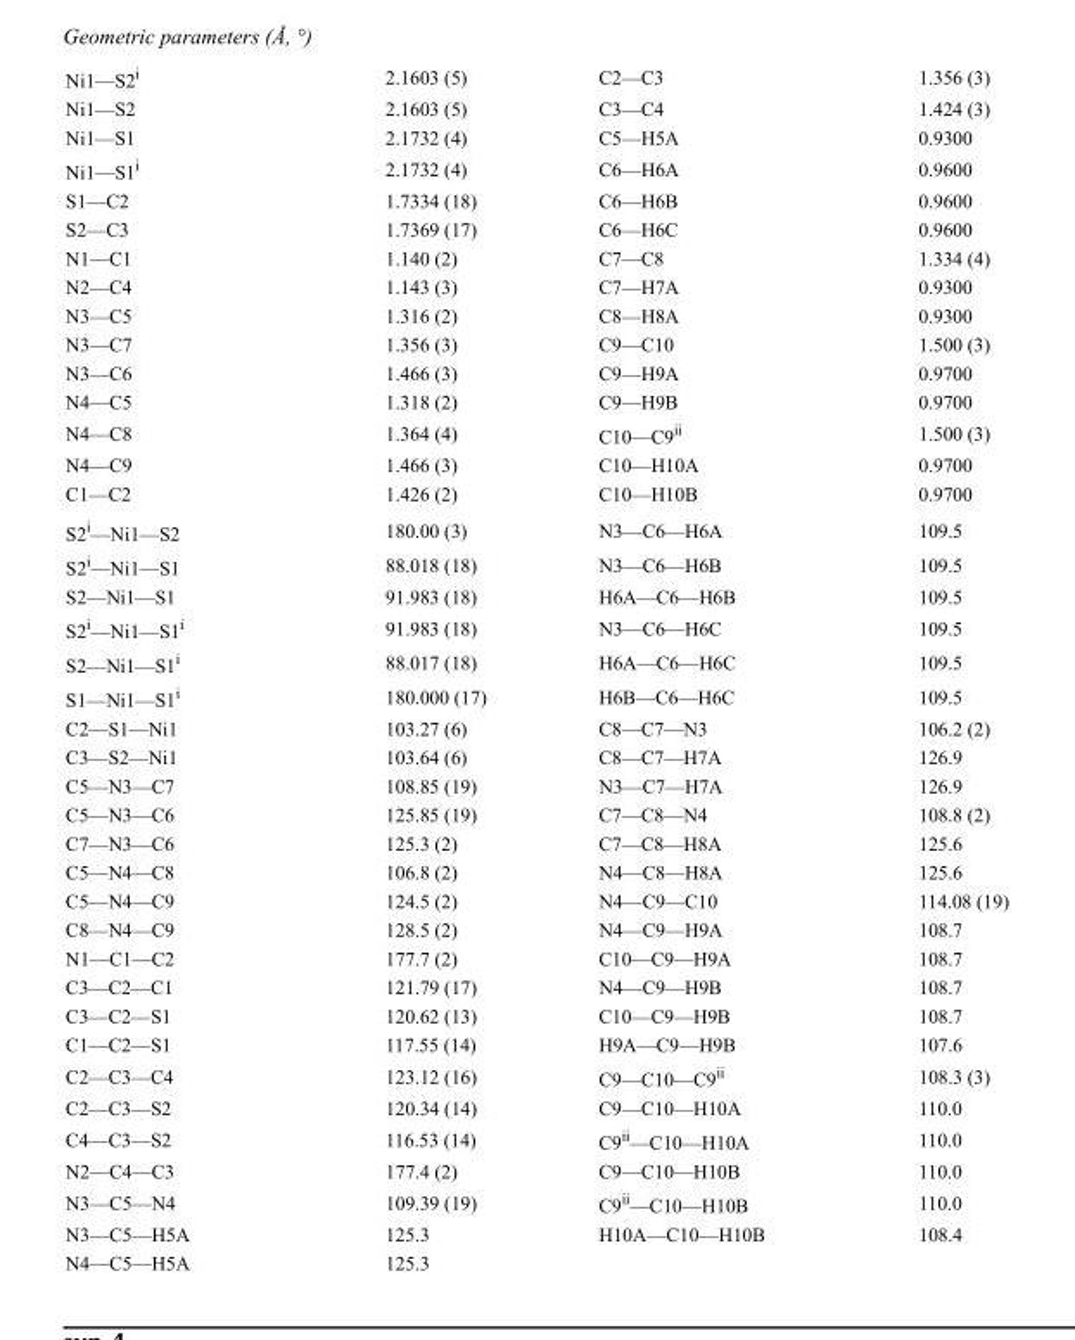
<table><tbody><tr><td>Ni1—S2<sup>i</sup></td><td>2.1603 (5)</td><td>C2—C3</td><td>1.356 (3)</td></tr><tr><td>Ni1—S2</td><td>2.1603 (5)</td><td>C3—C4</td><td>1.424 (3)</td></tr><tr><td>Ni1—S1</td><td>2.1732 (4)</td><td>C5—H5A</td><td>0.9300</td></tr><tr><td>Ni1—S1<sup>i</sup></td><td>2.1732 (4)</td><td>C6—H6A</td><td>0.9600</td></tr><tr><td>S1—C2</td><td>1.7334 (18)</td><td>C6—H6B</td><td>0.9600</td></tr><tr><td>S2—C3</td><td>1.7369 (17)</td><td>C6—H6C</td><td>0.9600</td></tr><tr><td>N1—C1</td><td>1.140 (2)</td><td>C7—C8</td><td>1.334 (4)</td></tr><tr><td>N2—C4</td><td>1.143 (3)</td><td>C7—H7A</td><td>0.9300</td></tr><tr><td>N3—C5</td><td>1.316 (2)</td><td>C8—H8A</td><td>0.9300</td></tr><tr><td>N3—C7</td><td>1.356 (3)</td><td>C9—C10</td><td>1.500 (3)</td></tr><tr><td>N3—C6</td><td>1.466 (3)</td><td>C9—H9A</td><td>0.9700</td></tr><tr><td>N4—C5</td><td>1.318 (2)</td><td>C9—H9B</td><td>0.9700</td></tr><tr><td>N4—C8</td><td>1.364 (4)</td><td>C10—C9<sup>ii</sup></td><td>1.500 (3)</td></tr><tr><td>N4—C9</td><td>1.466 (3)</td><td>C10—H10A</td><td>0.9700</td></tr><tr><td>C1—C2</td><td>1.426 (2)</td><td>C10—H10B</td><td>0.9700</td></tr><tr><td>S2<sup>i</sup>—Ni1—S2</td><td>180.00 (3)</td><td>N3—C6—H6A</td><td>109.5</td></tr><tr><td>S2<sup>i</sup>—Ni1—S1</td><td>88.018 (18)</td><td>N3—C6—H6B</td><td>109.5</td></tr><tr><td>S2—Ni1—S1</td><td>91.983 (18)</td><td>H6A—C6—H6B</td><td>109.5</td></tr><tr><td>S2<sup>i</sup>—Ni1—S1<sup>i</sup></td><td>91.983 (18)</td><td>N3—C6—H6C</td><td>109.5</td></tr><tr><td>S2—Ni1—S1<sup>i</sup></td><td>88.017 (18)</td><td>H6A—C6—H6C</td><td>109.5</td></tr><tr><td>S1—Ni1—S1<sup>i</sup></td><td>180.000 (17)</td><td>H6B—C6—H6C</td><td>109.5</td></tr><tr><td>C2—S1—Ni1</td><td>103.27 (6)</td><td>C8—C7—N3</td><td>106.2 (2)</td></tr><tr><td>C3—S2—Ni1</td><td>103.64 (6)</td><td>C8—C7—H7A</td><td>126.9</td></tr><tr><td>C5—N3—C7</td><td>108.85 (19)</td><td>N3—C7—H7A</td><td>126.9</td></tr><tr><td>C5—N3—C6</td><td>125.85 (19)</td><td>C7—C8—N4</td><td>108.8 (2)</td></tr><tr><td>C7—N3—C6</td><td>125.3 (2)</td><td>C7—C8—H8A</td><td>125.6</td></tr><tr><td>C5—N4—C8</td><td>106.8 (2)</td><td>N4—C8—H8A</td><td>125.6</td></tr><tr><td>C5—N4—C9</td><td>124.5 (2)</td><td>N4—C9—C10</td><td>114.08 (19)</td></tr><tr><td>C8—N4—C9</td><td>128.5 (2)</td><td>N4—C9—H9A</td><td>108.7</td></tr><tr><td>N1—C1—C2</td><td>177.7 (2)</td><td>C10—C9—H9A</td><td>108.7</td></tr><tr><td>C3—C2—C1</td><td>121.79 (17)</td><td>N4—C9—H9B</td><td>108.7</td></tr><tr><td>C3—C2—S1</td><td>120.62 (13)</td><td>C10—C9—H9B</td><td>108.7</td></tr><tr><td>C1—C2—S1</td><td>117.55 (14)</td><td>H9A—C9—H9B</td><td>107.6</td></tr><tr><td>C2—C3—C4</td><td>123.12 (16)</td><td>C9—C10—C9<sup>ii</sup></td><td>108.3 (3)</td></tr><tr><td>C2—C3—S2</td><td>120.34 (14)</td><td>C9—C10—H10A</td><td>110.0</td></tr><tr><td>C4—C3—S2</td><td>116.53 (14)</td><td>C9<sup>ii</sup>—C10—H10A</td><td>110.0</td></tr><tr><td>N2—C4—C3</td><td>177.4 (2)</td><td>C9—C10—H10B</td><td>110.0</td></tr><tr><td>N3—C5—N4</td><td>109.39 (19)</td><td>C9<sup>ii</sup>—C10—H10B</td><td>110.0</td></tr><tr><td>N3—C5—H5A</td><td>125.3</td><td>H10A—C10—H10B</td><td>108.4</td></tr><tr><td>N4—C5—H5A</td><td>125.3</td><td></td><td></td></tr></tbody></table>